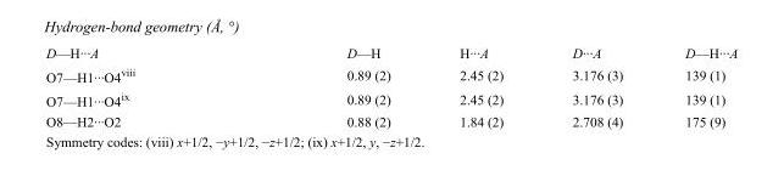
<table><tbody><tr><td>D—H···A</td><td>D—H</td><td>H···A</td><td>D···A</td><td>D—H···A</td></tr><tr><td>O7—H1···O4<sup>viii</sup></td><td>0.89 (2)</td><td>2.45 (2)</td><td>3.176 (3)</td><td>139 (1)</td></tr><tr><td>O7—H1···O4<sup>ix</sup></td><td>0.89 (2)</td><td>2.45 (2)</td><td>3.176 (3)</td><td>139 (1)</td></tr><tr><td>O8—H2···O2</td><td>0.88 (2)</td><td>1.84 (2)</td><td>2.708 (4)</td><td>175 (9)</td></tr></tbody></table>